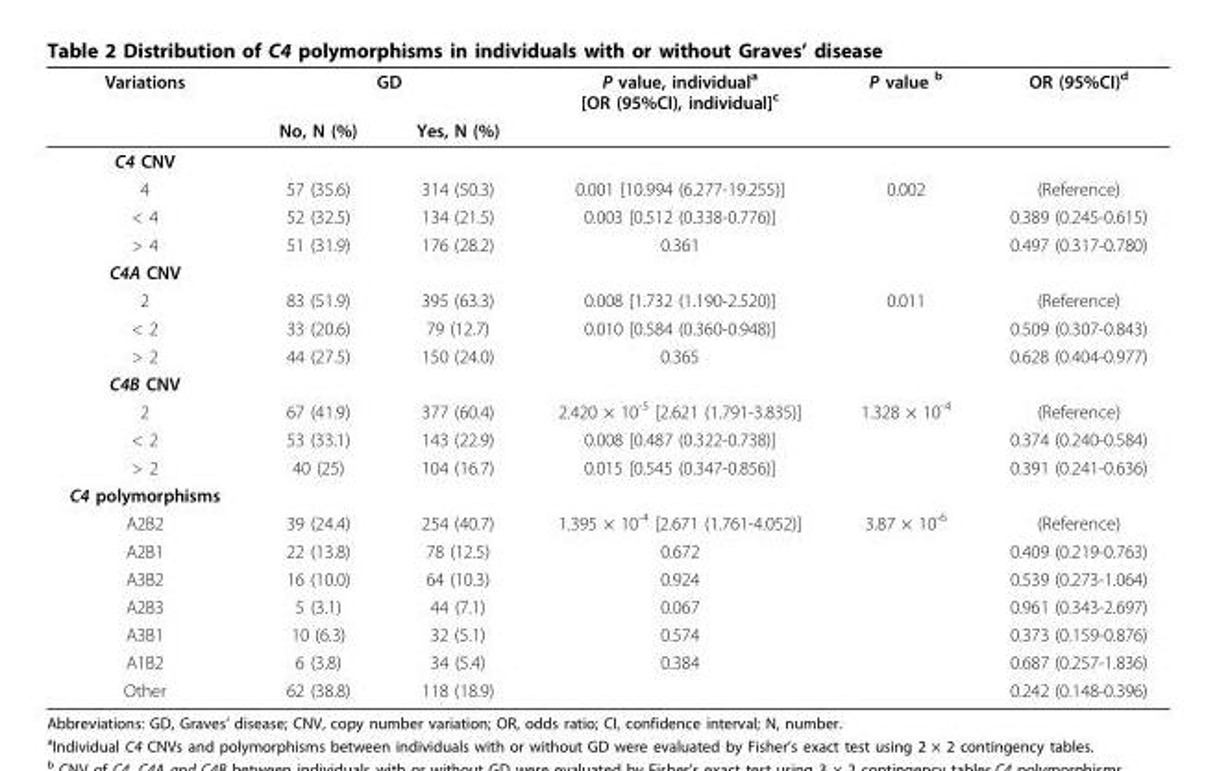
<table><thead><tr><td rowspan="2">Variations</td><td colspan="2">GD</td><td rowspan="2">P value, individual<sup>a</sup> [OR (95%CI), individual]<sup>c</sup></td><td rowspan="2">P value <sup>b</sup></td><td rowspan="2">OR (95%CI)<sup>d</sup></td></tr><tr><td>No, N (%)</td><td>Yes, N (%)</td></tr></thead><tbody><tr><td colspan="6">C4 CNV</td></tr><tr><td>4</td><td>57 (35.6)</td><td>314 (50.3)</td><td>0.001 [10.994 (6.277-19.255)]</td><td>0.002</td><td>(Reference)</td></tr><tr><td>&lt; 4</td><td>52 (32.5)</td><td>134 (21.5)</td><td>0.003 [0.512 (0.338-0.776)]</td><td></td><td>0.389 (0.245-0.615)</td></tr><tr><td>&gt; 4</td><td>51 (31.9)</td><td>176 (28.2)</td><td>0.361</td><td></td><td>0.497 (0.317-0.780)</td></tr><tr><td colspan="6">C4A CNV</td></tr><tr><td>2</td><td>83 (51.9)</td><td>395 (63.3)</td><td>0.008 [1.732 (1.190-2.520)]</td><td>0.011</td><td>(Reference)</td></tr><tr><td>&lt; 2</td><td>33 (20.6)</td><td>79 (12.7)</td><td>0.010 [0.584 (0.360-0.948)]</td><td></td><td>0.509 (0.307-0.843)</td></tr><tr><td>&gt; 2</td><td>44 (27.5)</td><td>150 (24.0)</td><td>0.365</td><td></td><td>0.628 (0.404-0.977)</td></tr><tr><td colspan="6">C4B CNV</td></tr><tr><td>2</td><td>67 (41.9)</td><td>377 (60.4)</td><td>2.420 × 10<sup>-5</sup> [2.621 (1.791-3.835)]</td><td>1.328 × 10<sup>-4</sup></td><td>(Reference)</td></tr><tr><td>&lt; 2</td><td>53 (33.1)</td><td>143 (22.9)</td><td>0.008 [0.487 (0.322-0.738)]</td><td></td><td>0.374 (0.240-0.584)</td></tr><tr><td>&gt; 2</td><td>40 (25)</td><td>104 (16.7)</td><td>0.015 [0.545 (0.347-0.856)]</td><td></td><td>0.391 (0.241-0.636)</td></tr><tr><td colspan="6">C4 polymorphisms</td></tr><tr><td>A2B2</td><td>39 (24.4)</td><td>254 (40.7)</td><td>1.395 × 10<sup>-4</sup> [2.671 (1.761-4.052)]</td><td>3.87 × 10<sup>-6</sup></td><td>(Reference)</td></tr><tr><td>A2B1</td><td>22 (13.8)</td><td>78 (12.5)</td><td>0.672</td><td></td><td>0.409 (0.219-0.763)</td></tr><tr><td>A3B2</td><td>16 (10.0)</td><td>64 (10.3)</td><td>0.924</td><td></td><td>0.539 (0.273-1.064)</td></tr><tr><td>A2B3</td><td>5 (3.1)</td><td>44 (7.1)</td><td>0.067</td><td></td><td>0.961 (0.343-2.697)</td></tr><tr><td>A3B1</td><td>10 (6.3)</td><td>32 (5.1)</td><td>0.574</td><td></td><td>0.373 (0.159-0.876)</td></tr><tr><td>A1B2</td><td>6 (3.8)</td><td>34 (5.4)</td><td>0.384</td><td></td><td>0.687 (0.257-1.836)</td></tr><tr><td>Other</td><td>62 (38.8)</td><td>118 (18.9)</td><td></td><td></td><td>0.242 (0.148-0.396)</td></tr></tbody></table>